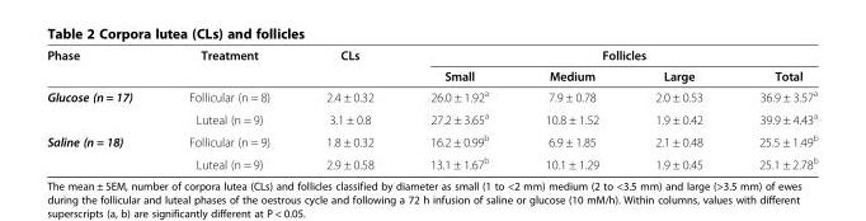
<table><thead><tr><td rowspan="2">Phase</td><td rowspan="2">Treatment</td><td rowspan="2">CLs</td><td colspan="4">Follicles</td></tr><tr><td>Small</td><td>Medium</td><td>Large</td><td>Total</td></tr></thead><tbody><tr><td rowspan="2">Glucose (n = 17)</td><td>Follicular (n = 8)</td><td>2.4 ± 0.32</td><td>26.0 ± 1.92<sup>a</sup></td><td>7.9 ± 0.78</td><td>2.0 ± 0.53</td><td>36.9 ± 3.57<sup>a</sup></td></tr><tr><td>Luteal (n = 9)</td><td>3.1 ± 0.8</td><td>27.2 ± 3.65<sup>a</sup></td><td>10.8 ± 1.52</td><td>1.9 ± 0.42</td><td>39.9 ± 4.43<sup>a</sup></td></tr><tr><td rowspan="2">Saline (n = 18)</td><td>Follicular (n = 9)</td><td>1.8 ± 0.32</td><td>16.2 ± 0.99<sup>b</sup></td><td>6.9 ± 1.85</td><td>2.1 ± 0.48</td><td>25.5 ± 1.49<sup>b</sup></td></tr><tr><td>Luteal (n = 9)</td><td>2.9 ± 0.58</td><td>13.1 ± 1.67<sup>b</sup></td><td>10.1 ± 1.29</td><td>1.9 ± 0.45</td><td>25.1 ± 2.78<sup>b</sup></td></tr></tbody></table>